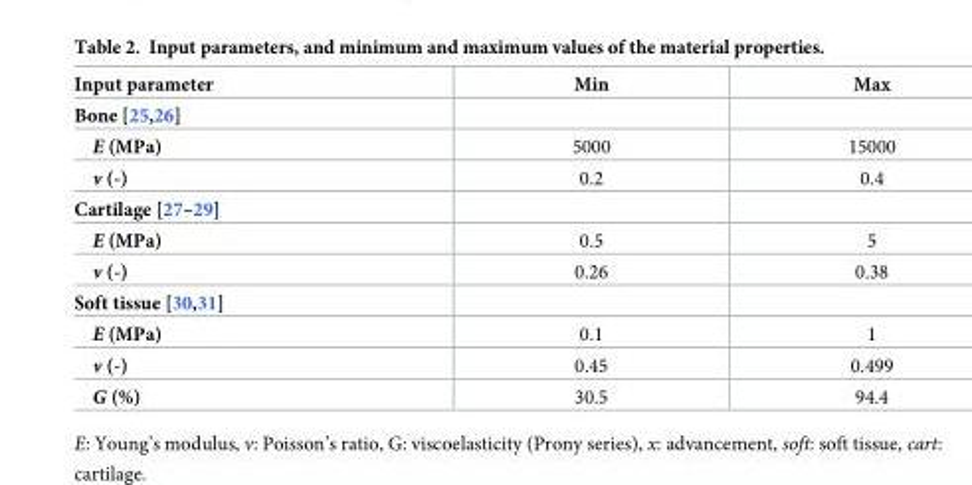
<table><thead><tr><td>Input parameter</td><td>Min</td><td>Max</td></tr></thead><tbody><tr><td colspan="3">Bone [25,26]</td></tr><tr><td>E (MPa)</td><td>5000</td><td>15000</td></tr><tr><td>ν (-)</td><td>0.2</td><td>0.4</td></tr><tr><td colspan="3">Cartilage [27–29]</td></tr><tr><td>E (MPa)</td><td>0.5</td><td>5</td></tr><tr><td>ν (-)</td><td>0.26</td><td>0.38</td></tr><tr><td colspan="3">Soft tissue [30,31]</td></tr><tr><td>E (MPa)</td><td>0.1</td><td>1</td></tr><tr><td>ν (-)</td><td>0.45</td><td>0.499</td></tr><tr><td>G (%)</td><td>30.5</td><td>94.4</td></tr></tbody></table>